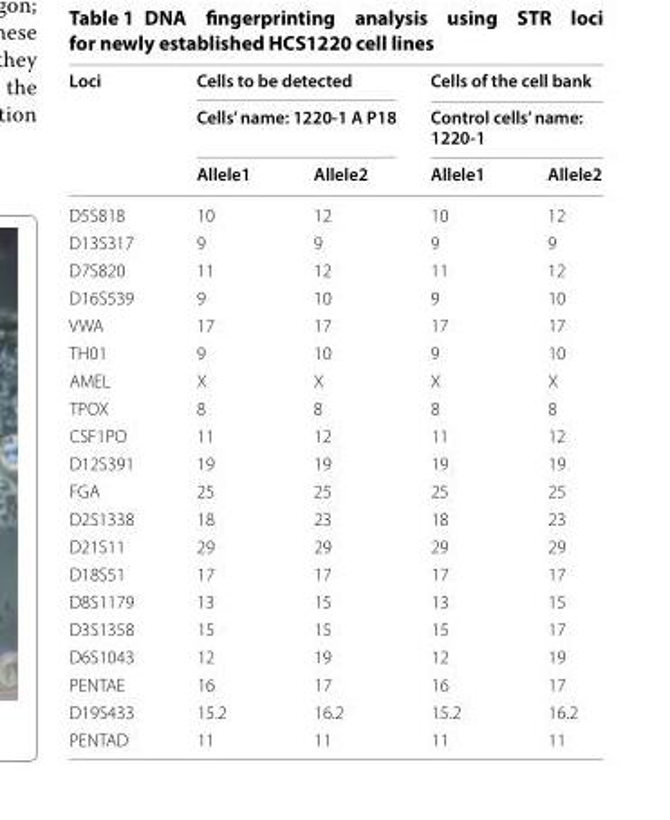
<table><thead><tr><td rowspan="3">Loci</td><td rowspan="2" colspan="2">Cells to be detected Cells’ name: 1220-1 A P18</td><td rowspan="2" colspan="2">Cells of the cell bank Control cells’ name: 1220-1</td></tr><tr></tr><tr><td>Allele1</td><td>Allele2</td><td>Allele1</td><td>Allele2</td></tr></thead><tbody><tr><td>D5S818</td><td>10</td><td>12</td><td>10</td><td>12</td></tr><tr><td>D13S317</td><td>9</td><td>9</td><td>9</td><td>9</td></tr><tr><td>D7S820</td><td>11</td><td>12</td><td>11</td><td>12</td></tr><tr><td>D16S539</td><td>9</td><td>10</td><td>9</td><td>10</td></tr><tr><td>VWA</td><td>17</td><td>17</td><td>17</td><td>17</td></tr><tr><td>TH01</td><td>9</td><td>10</td><td>9</td><td>10</td></tr><tr><td>AMEL</td><td>X</td><td>X</td><td>X</td><td>X</td></tr><tr><td>TPOX</td><td>8</td><td>8</td><td>8</td><td>8</td></tr><tr><td>CSF1PO</td><td>11</td><td>12</td><td>11</td><td>12</td></tr><tr><td>D12S391</td><td>19</td><td>19</td><td>19</td><td>19</td></tr><tr><td>FGA</td><td>25</td><td>25</td><td>25</td><td>25</td></tr><tr><td>D2S1338</td><td>18</td><td>23</td><td>18</td><td>23</td></tr><tr><td>D21S11</td><td>29</td><td>29</td><td>29</td><td>29</td></tr><tr><td>D18S51</td><td>17</td><td>17</td><td>17</td><td>17</td></tr><tr><td>D8S1179</td><td>13</td><td>15</td><td>13</td><td>15</td></tr><tr><td>D3S1358</td><td>15</td><td>15</td><td>15</td><td>17</td></tr><tr><td>D6S1043</td><td>12</td><td>19</td><td>12</td><td>19</td></tr><tr><td>PENTAE</td><td>16</td><td>17</td><td>16</td><td>17</td></tr><tr><td>D19S433</td><td>15.2</td><td>16.2</td><td>15.2</td><td>16.2</td></tr><tr><td>PENTAD</td><td>11</td><td>11</td><td>11</td><td>11</td></tr></tbody></table>